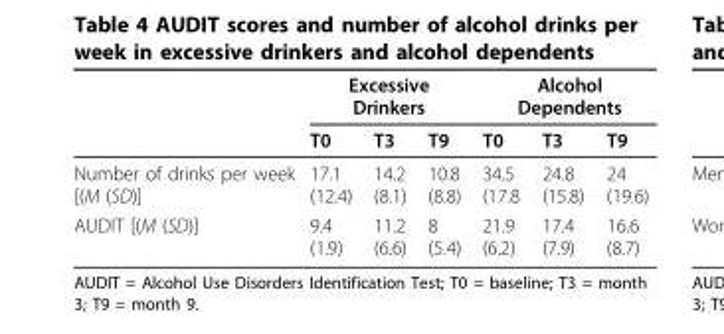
<table><thead><tr><td rowspan="2"></td><td colspan="3">Excessive Drinkers</td><td colspan="3">Alcohol Dependents</td></tr><tr><td>T0</td><td>T3</td><td>T9</td><td>T0</td><td>T3</td><td>T9</td></tr></thead><tbody><tr><td>Number of drinks per week [(M (SD)]</td><td>17.1 (12.4)</td><td>14.2 (8.1)</td><td>10.8 (8.8)</td><td>34.5 (17.8</td><td>24.8 (15.8)</td><td>24 (19.6)</td></tr><tr><td>AUDIT [(M (SD)]</td><td>9.4 (1.9)</td><td>11.2 (6.6)</td><td>8 (5.4)</td><td>21.9 (6.2)</td><td>17.4 (7.9)</td><td>16.6 (8.7)</td></tr></tbody></table>